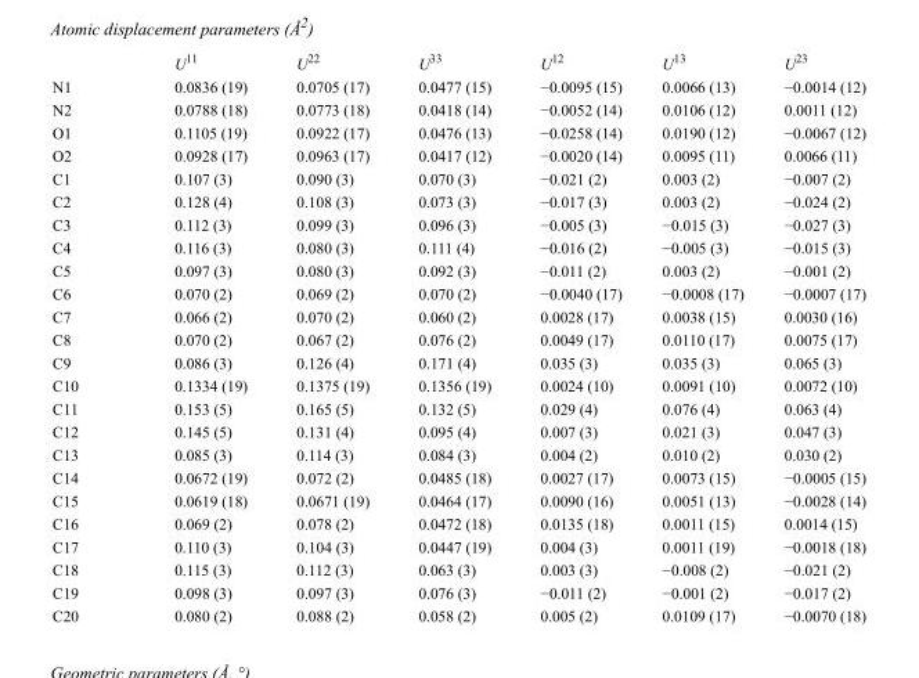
<table><thead><tr><td></td><td>U<sup>11</sup></td><td>U<sup>22</sup></td><td>U<sup>33</sup></td><td>U<sup>12</sup></td><td>U<sup>13</sup></td><td>U<sup>23</sup></td></tr></thead><tbody><tr><td>N1</td><td>0.0836 (19)</td><td>0.0705 (17)</td><td>0.0477 (15)</td><td>−0.0095 (15)</td><td>0.0066 (13)</td><td>−0.0014 (12)</td></tr><tr><td>N2</td><td>0.0788 (18)</td><td>0.0773 (18)</td><td>0.0418 (14)</td><td>−0.0052 (14)</td><td>0.0106 (12)</td><td>0.0011 (12)</td></tr><tr><td>O1</td><td>0.1105 (19)</td><td>0.0922 (17)</td><td>0.0476 (13)</td><td>−0.0258 (14)</td><td>0.0190 (12)</td><td>−0.0067 (12)</td></tr><tr><td>O2</td><td>0.0928 (17)</td><td>0.0963 (17)</td><td>0.0417 (12)</td><td>−0.0020 (14)</td><td>0.0095 (11)</td><td>0.0066 (11)</td></tr><tr><td>C1</td><td>0.107 (3)</td><td>0.090 (3)</td><td>0.070 (3)</td><td>−0.021 (2)</td><td>0.003 (2)</td><td>−0.007 (2)</td></tr><tr><td>C2</td><td>0.128 (4)</td><td>0.108 (3)</td><td>0.073 (3)</td><td>−0.017 (3)</td><td>0.003 (2)</td><td>−0.024 (2)</td></tr><tr><td>C3</td><td>0.112 (3)</td><td>0.099 (3)</td><td>0.096 (3)</td><td>−0.005 (3)</td><td>−0.015 (3)</td><td>−0.027 (3)</td></tr><tr><td>C4</td><td>0.116 (3)</td><td>0.080 (3)</td><td>0.111 (4)</td><td>−0.016 (2)</td><td>−0.005 (3)</td><td>−0.015 (3)</td></tr><tr><td>C5</td><td>0.097 (3)</td><td>0.080 (3)</td><td>0.092 (3)</td><td>−0.011 (2)</td><td>0.003 (2)</td><td>−0.001 (2)</td></tr><tr><td>C6</td><td>0.070 (2)</td><td>0.069 (2)</td><td>0.070 (2)</td><td>−0.0040 (17)</td><td>−0.0008 (17)</td><td>−0.0007 (17)</td></tr><tr><td>C7</td><td>0.066 (2)</td><td>0.070 (2)</td><td>0.060 (2)</td><td>0.0028 (17)</td><td>0.0038 (15)</td><td>0.0030 (16)</td></tr><tr><td>C8</td><td>0.070 (2)</td><td>0.067 (2)</td><td>0.076 (2)</td><td>0.0049 (17)</td><td>0.0110 (17)</td><td>0.0075 (17)</td></tr><tr><td>C9</td><td>0.086 (3)</td><td>0.126 (4)</td><td>0.171 (4)</td><td>0.035 (3)</td><td>0.035 (3)</td><td>0.065 (3)</td></tr><tr><td>C10</td><td>0.1334 (19)</td><td>0.1375 (19)</td><td>0.1356 (19)</td><td>0.0024 (10)</td><td>0.0091 (10)</td><td>0.0072 (10)</td></tr><tr><td>C11</td><td>0.153 (5)</td><td>0.165 (5)</td><td>0.132 (5)</td><td>0.029 (4)</td><td>0.076 (4)</td><td>0.063 (4)</td></tr><tr><td>C12</td><td>0.145 (5)</td><td>0.131 (4)</td><td>0.095 (4)</td><td>0.007 (3)</td><td>0.021 (3)</td><td>0.047 (3)</td></tr><tr><td>C13</td><td>0.085 (3)</td><td>0.114 (3)</td><td>0.084 (3)</td><td>0.004 (2)</td><td>0.010 (2)</td><td>0.030 (2)</td></tr><tr><td>C14</td><td>0.0672 (19)</td><td>0.072 (2)</td><td>0.0485 (18)</td><td>0.0027 (17)</td><td>0.0073 (15)</td><td>−0.0005 (15)</td></tr><tr><td>C15</td><td>0.0619 (18)</td><td>0.0671 (19)</td><td>0.0464 (17)</td><td>0.0090 (16)</td><td>0.0051 (13)</td><td>−0.0028 (14)</td></tr><tr><td>C16</td><td>0.069 (2)</td><td>0.078 (2)</td><td>0.0472 (18)</td><td>0.0135 (18)</td><td>0.0011 (15)</td><td>0.0014 (15)</td></tr><tr><td>C17</td><td>0.110 (3)</td><td>0.104 (3)</td><td>0.0447 (19)</td><td>0.004 (3)</td><td>0.0011 (19)</td><td>−0.0018 (18)</td></tr><tr><td>C18</td><td>0.115 (3)</td><td>0.112 (3)</td><td>0.063 (3)</td><td>0.003 (3)</td><td>−0.008 (2)</td><td>−0.021 (2)</td></tr><tr><td>C19</td><td>0.098 (3)</td><td>0.097 (3)</td><td>0.076 (3)</td><td>−0.011 (2)</td><td>−0.001 (2)</td><td>−0.017 (2)</td></tr><tr><td>C20</td><td>0.080 (2)</td><td>0.088 (2)</td><td>0.058 (2)</td><td>0.005 (2)</td><td>0.0109 (17)</td><td>−0.0070 (18)</td></tr></tbody></table>